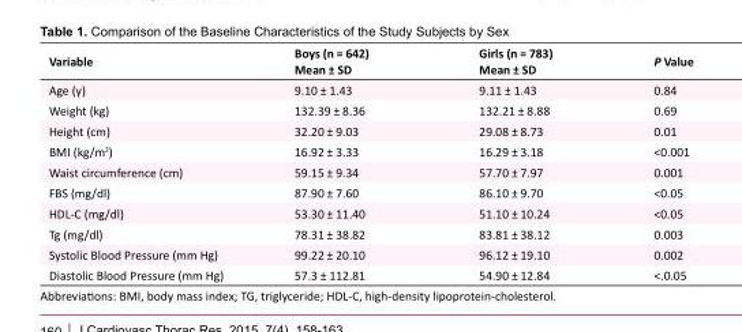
<table><tbody><tr><td>Variable</td><td>Boys (n = 642) Mean ± SD</td><td>Girls (n = 783) Mean ± SD</td><td>P Value</td></tr><tr><td>Age (y)</td><td>9.10 ± 1.43</td><td>9.11 ± 1.43</td><td>0.84</td></tr><tr><td>Weight (kg)</td><td>132.39 ± 8.36</td><td>132.21 ± 8.88</td><td>0.69</td></tr><tr><td>Height (cm)</td><td>32.20 ± 9.03</td><td>29.08 ± 8.73</td><td>0.01</td></tr><tr><td>BMI (kg/m<sup>2</sup>)</td><td>16.92 ± 3.33</td><td>16.29 ± 3.18</td><td>&lt;0.001</td></tr><tr><td>Waist circumference (cm)</td><td>59.15 ± 9.34</td><td>57.70 ± 7.97</td><td>0.001</td></tr><tr><td>FBS (mg/dl)</td><td>87.90 ± 7.60</td><td>86.10 ± 9.70</td><td>&lt;0.05</td></tr><tr><td>HDL-C (mg/dl)</td><td>53.30 ± 11.40</td><td>51.10 ± 10.24</td><td>&lt;0.05</td></tr><tr><td>Tg (mg/dl)</td><td>78.31 ± 38.82</td><td>83.81 ± 38.12</td><td>0.003</td></tr><tr><td>Systolic Blood Pressure (mm Hg)</td><td>99.22 ± 20.10</td><td>96.12 ± 19.10</td><td>0.002</td></tr><tr><td>Diastolic Blood Pressure (mm Hg)</td><td>57.3 ± 112.81</td><td>54.90 ± 12.84</td><td>&lt;.0.05</td></tr></tbody></table>